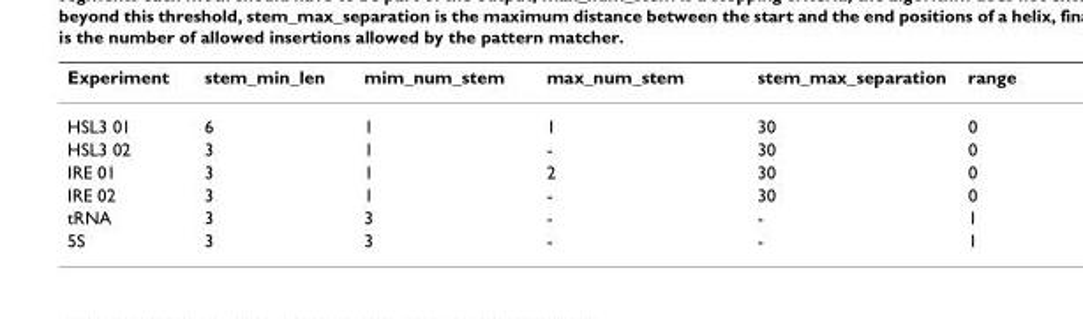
<table><thead><tr><td>Experiment</td><td>stem_min_len</td><td>mim_num_stem</td><td>max_num_stem</td><td>stem_max_separation</td><td>range</td></tr></thead><tbody><tr><td>HSL3 01</td><td>6</td><td>1</td><td>1</td><td>30</td><td>0</td></tr><tr><td>HSL3 02</td><td>3</td><td>1</td><td>-</td><td>30</td><td>0</td></tr><tr><td>IRE 01</td><td>3</td><td>1</td><td>2</td><td>30</td><td>0</td></tr><tr><td>IRE 02</td><td>3</td><td>1</td><td>-</td><td>30</td><td>0</td></tr><tr><td>tRNA</td><td>3</td><td>3</td><td>-</td><td>-</td><td>1</td></tr><tr><td>5S</td><td>3</td><td>3</td><td>-</td><td>-</td><td>1</td></tr></tbody></table>